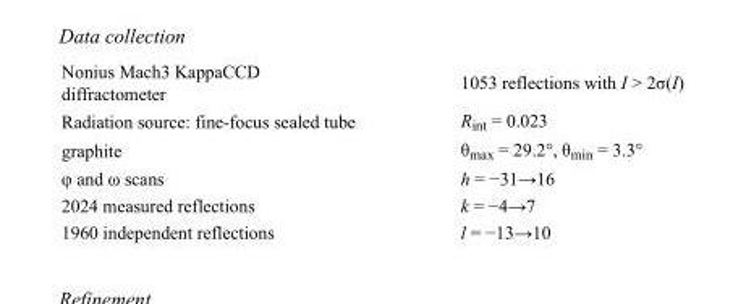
<table><tbody><tr><td>Nonius Mach3 KappaCCD diffractometer</td><td>1053 reflections with I &gt; 2σ(I)</td></tr><tr><td>Radiation source: fine-focus sealed tube</td><td>R<sub>int</sub> = 0.023</td></tr><tr><td>graphite</td><td>θ<sub>max</sub> = 29.2°, θ<sub>min</sub> = 3.3°</td></tr><tr><td>φ and ω scans</td><td>h = −31→16</td></tr><tr><td>2024 measured reflections</td><td>k = −4→7</td></tr><tr><td>1960 independent reflections</td><td>l = −13→10</td></tr></tbody></table>